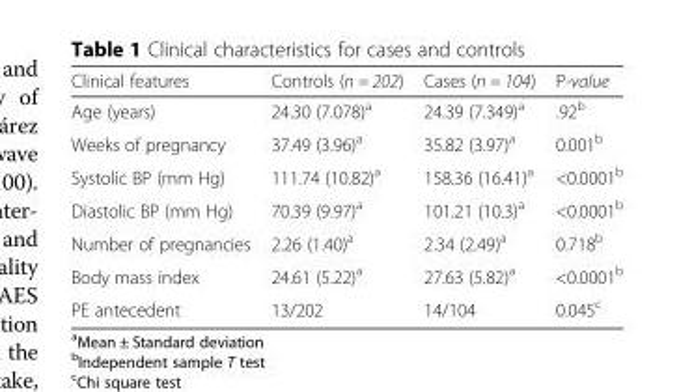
<table><thead><tr><td>Clinical features</td><td>Controls (n = 202)</td><td>Cases (n = 104)</td><td>P-value</td></tr></thead><tbody><tr><td>Age (years)</td><td>24.30 (7.078)<sup>a</sup></td><td>24.39 (7.349)<sup>a</sup></td><td>.92<sup>b</sup></td></tr><tr><td>Weeks of pregnancy</td><td>37.49 (3.96)<sup>a</sup></td><td>35.82 (3.97)<sup>a</sup></td><td>0.001<sup>b</sup></td></tr><tr><td>Systolic BP (mm Hg)</td><td>111.74 (10.82)<sup>a</sup></td><td>158.36 (16.41)<sup>a</sup></td><td>&lt;0.0001<sup>b</sup></td></tr><tr><td>Diastolic BP (mm Hg)</td><td>70.39 (9.97)<sup>a</sup></td><td>101.21 (10.3)<sup>a</sup></td><td>&lt;0.0001<sup>b</sup></td></tr><tr><td>Number of pregnancies</td><td>2.26 (1.40)<sup>a</sup></td><td>2.34 (2.49)<sup>a</sup></td><td>0.718<sup>b</sup></td></tr><tr><td>Body mass index</td><td>24.61 (5.22)<sup>a</sup></td><td>27.63 (5.82)<sup>a</sup></td><td>&lt;0.0001<sup>b</sup></td></tr><tr><td>PE antecedent</td><td>13/202</td><td>14/104</td><td>0.045<sup>c</sup></td></tr></tbody></table>